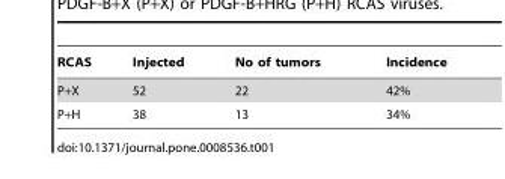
<table><thead><tr><td>RCAS</td><td>Injected</td><td>No of tumors</td><td>Incidence</td></tr></thead><tbody><tr><td>P+X</td><td>52</td><td>22</td><td>42%</td></tr><tr><td>P+H</td><td>38</td><td>13</td><td>34%</td></tr></tbody></table>